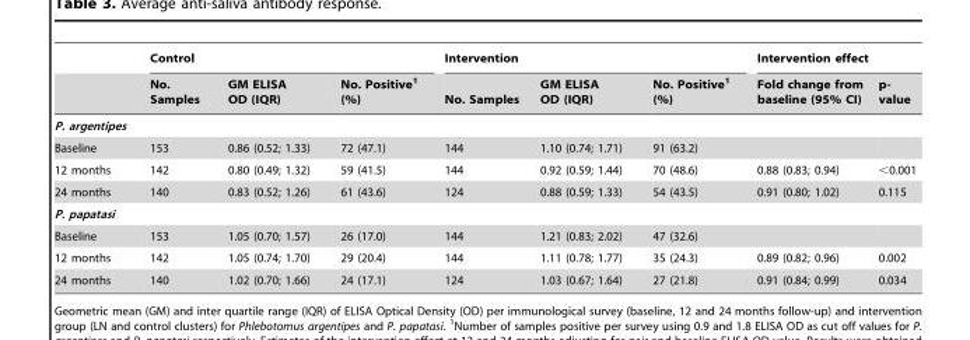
<table><thead><tr><td rowspan="2"></td><td colspan="3">Control</td><td colspan="3">Intervention</td><td colspan="2">Intervention effect</td></tr><tr><td>No. Samples</td><td>GM ELISA OD (IQR)</td><td>No. Positive<sup>1</sup> (%)</td><td>No. Samples</td><td>GM ELISA OD (IQR)</td><td>No. Positive<sup>1</sup> (%)</td><td>Fold change from baseline (95% CI)</td><td>p- value</td></tr></thead><tbody><tr><td colspan="9">P. argentipes</td></tr><tr><td>Baseline</td><td>153</td><td>0.86 (0.52; 1.33)</td><td>72 (47.1)</td><td>144</td><td>1.10 (0.74; 1.71)</td><td>91 (63.2)</td><td></td><td></td></tr><tr><td>12 months</td><td>142</td><td>0.80 (0.49; 1.32)</td><td>59 (41.5)</td><td>144</td><td>0.92 (0.59; 1.44)</td><td>70 (48.6)</td><td>0.88 (0.83; 0.94)</td><td>&lt;0.001</td></tr><tr><td>24 months</td><td>140</td><td>0.83 (0.52; 1.26)</td><td>61 (43.6)</td><td>124</td><td>0.88 (0.59; 1.33)</td><td>54 (43.5)</td><td>0.91 (0.80; 1.02)</td><td>0.115</td></tr><tr><td colspan="9">P. papatasi</td></tr><tr><td>Baseline</td><td>153</td><td>1.05 (0.70; 1.57)</td><td>26 (17.0)</td><td>144</td><td>1.21 (0.83; 2.02)</td><td>47 (32.6)</td><td></td><td></td></tr><tr><td>12 months</td><td>142</td><td>1.05 (0.74; 1.70)</td><td>29 (20.4)</td><td>144</td><td>1.11 (0.78; 1.77)</td><td>35 (24.3)</td><td>0.89 (0.82; 0.96)</td><td>0.002</td></tr><tr><td>24 months</td><td>140</td><td>1.02 (0.70; 1.66)</td><td>24 (17.1)</td><td>124</td><td>1.03 (0.67; 1.64)</td><td>27 (21.8)</td><td>0.91 (0.84; 0.99)</td><td>0.034</td></tr></tbody></table>